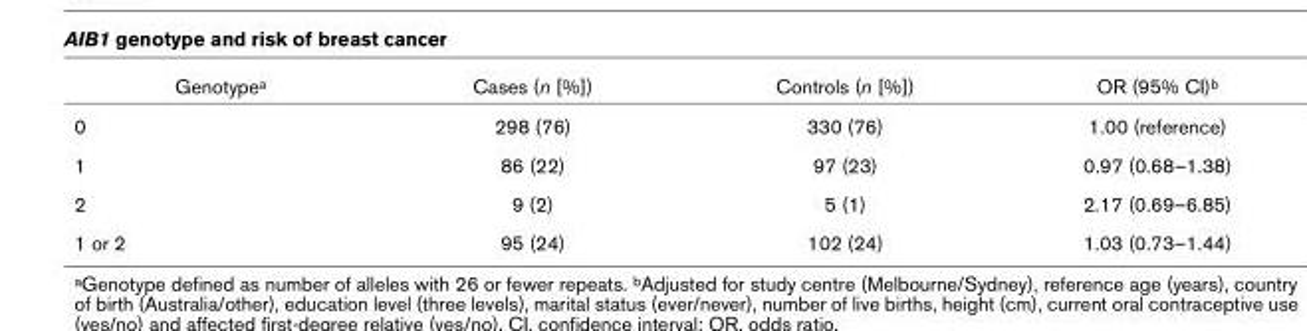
<table><thead><tr><td>Genotypea</td><td>Cases (n [%])</td><td>Controls (n [%])</td><td>OR (95% CI)b</td></tr></thead><tbody><tr><td>0</td><td>298 (76)</td><td>330 (76)</td><td>1.00 (reference)</td></tr><tr><td>1</td><td>86 (22)</td><td>97 (23)</td><td>0.97 (0.68–1.38)</td></tr><tr><td>2</td><td>9 (2)</td><td>5 (1)</td><td>2.17 (0.69–6.85)</td></tr><tr><td>1 or 2</td><td>95 (24)</td><td>102 (24)</td><td>1.03 (0.73–1.44)</td></tr></tbody></table>